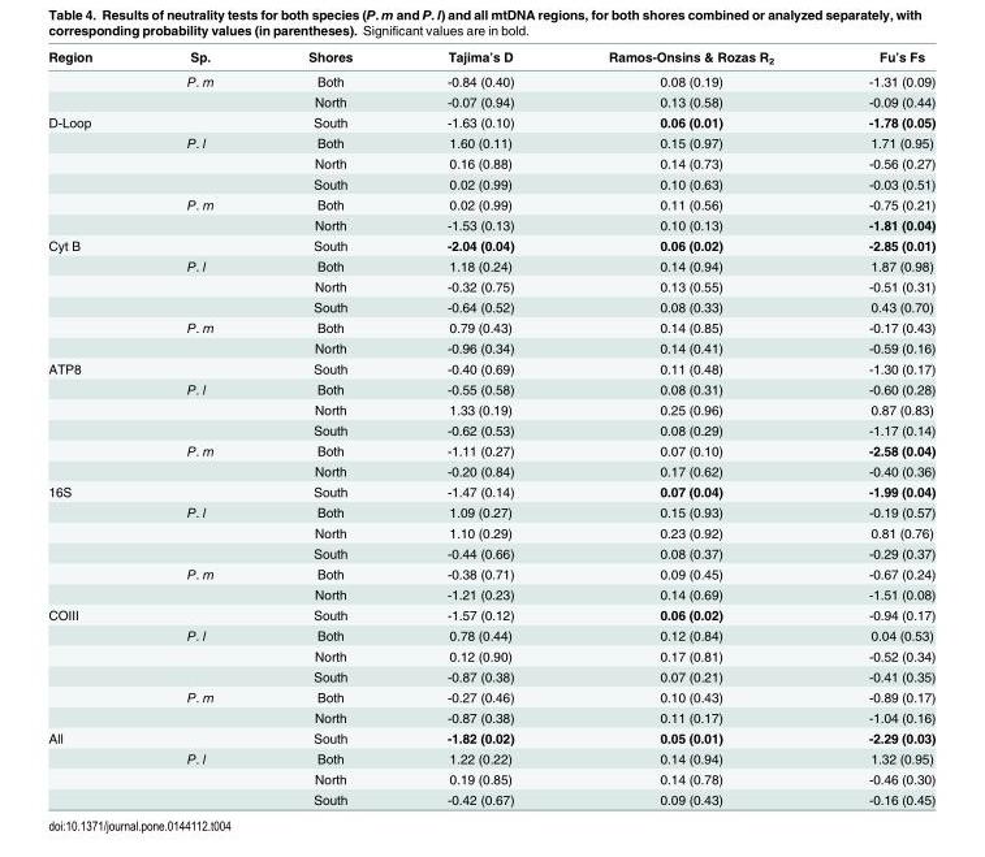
<table><thead><tr><td>Region</td><td>Sp.</td><td>Shores</td><td>Tajima’s D</td><td>Ramos-Onsins &amp; Rozas R<sub>2</sub></td><td>Fu’s Fs</td></tr></thead><tbody><tr><td></td><td>P. m</td><td>Both</td><td>-0.84 (0.40)</td><td>0.08 (0.19)</td><td>-1.31 (0.09)</td></tr><tr><td></td><td></td><td>North</td><td>-0.07 (0.94)</td><td>0.13 (0.58)</td><td>-0.09 (0.44)</td></tr><tr><td rowspan="6">D-Loop</td><td></td><td>South</td><td>-1.63 (0.10)</td><td>0.06 (0.01)</td><td>-1.78 (0.05)</td></tr><tr><td>P. l</td><td>Both</td><td>1.60 (0.11)</td><td>0.15 (0.97)</td><td>1.71 (0.95)</td></tr><tr><td></td><td>North</td><td>0.16 (0.88)</td><td>0.14 (0.73)</td><td>-0.56 (0.27)</td></tr><tr><td></td><td>South</td><td>0.02 (0.99)</td><td>0.10 (0.63)</td><td>-0.03 (0.51)</td></tr><tr><td>P. m</td><td>Both</td><td>0.02 (0.99)</td><td>0.11 (0.56)</td><td>-0.75 (0.21)</td></tr><tr><td></td><td>North</td><td>-1.53 (0.13)</td><td>0.10 (0.13)</td><td>-1.81 (0.04)</td></tr><tr><td rowspan="6">Cyt B</td><td></td><td>South</td><td>-2.04 (0.04)</td><td>0.06 (0.02)</td><td>-2.85 (0.01)</td></tr><tr><td>P. l</td><td>Both</td><td>1.18 (0.24)</td><td>0.14 (0.94)</td><td>1.87 (0.98)</td></tr><tr><td></td><td>North</td><td>-0.32 (0.75)</td><td>0.13 (0.55)</td><td>-0.51 (0.31)</td></tr><tr><td></td><td>South</td><td>-0.64 (0.52)</td><td>0.08 (0.33)</td><td>0.43 (0.70)</td></tr><tr><td>P. m</td><td>Both</td><td>0.79 (0.43)</td><td>0.14 (0.85)</td><td>-0.17 (0.43)</td></tr><tr><td></td><td>North</td><td>-0.96 (0.34)</td><td>0.14 (0.41)</td><td>-0.59 (0.16)</td></tr><tr><td rowspan="6">ATP8</td><td></td><td>South</td><td>-0.40 (0.69)</td><td>0.11 (0.48)</td><td>-1.30 (0.17)</td></tr><tr><td>P. l</td><td>Both</td><td>-0.55 (0.58)</td><td>0.08 (0.31)</td><td>-0.60 (0.28)</td></tr><tr><td></td><td>North</td><td>1.33 (0.19)</td><td>0.25 (0.96)</td><td>0.87 (0.83)</td></tr><tr><td></td><td>South</td><td>-0.62 (0.53)</td><td>0.08 (0.29)</td><td>-1.17 (0.14)</td></tr><tr><td>P. m</td><td>Both</td><td>-1.11 (0.27)</td><td>0.07 (0.10)</td><td>-2.58 (0.04)</td></tr><tr><td></td><td>North</td><td>-0.20 (0.84)</td><td>0.17 (0.62)</td><td>-0.40 (0.36)</td></tr><tr><td rowspan="6">16S</td><td></td><td>South</td><td>-1.47 (0.14)</td><td>0.07 (0.04)</td><td>-1.99 (0.04)</td></tr><tr><td>P. l</td><td>Both</td><td>1.09 (0.27)</td><td>0.15 (0.93)</td><td>-0.19 (0.57)</td></tr><tr><td></td><td>North</td><td>1.10 (0.29)</td><td>0.23 (0.92)</td><td>0.81 (0.76)</td></tr><tr><td></td><td>South</td><td>-0.44 (0.66)</td><td>0.08 (0.37)</td><td>-0.29 (0.37)</td></tr><tr><td>P. m</td><td>Both</td><td>-0.38 (0.71)</td><td>0.09 (0.45)</td><td>-0.67 (0.24)</td></tr><tr><td></td><td>North</td><td>-1.21 (0.23)</td><td>0.14 (0.69)</td><td>-1.51 (0.08)</td></tr><tr><td rowspan="6">COIII</td><td></td><td>South</td><td>-1.57 (0.12)</td><td>0.06 (0.02)</td><td>-0.94 (0.17)</td></tr><tr><td>P. l</td><td>Both</td><td>0.78 (0.44)</td><td>0.12 (0.84)</td><td>0.04 (0.53)</td></tr><tr><td></td><td>North</td><td>0.12 (0.90)</td><td>0.17 (0.81)</td><td>-0.52 (0.34)</td></tr><tr><td></td><td>South</td><td>-0.87 (0.38)</td><td>0.07 (0.21)</td><td>-0.41 (0.35)</td></tr><tr><td>P. m</td><td>Both</td><td>-0.27 (0.46)</td><td>0.10 (0.43)</td><td>-0.89 (0.17)</td></tr><tr><td></td><td>North</td><td>-0.87 (0.38)</td><td>0.11 (0.17)</td><td>-1.04 (0.16)</td></tr><tr><td rowspan="4">All</td><td></td><td>South</td><td>-1.82 (0.02)</td><td>0.05 (0.01)</td><td>-2.29 (0.03)</td></tr><tr><td>P. l</td><td>Both</td><td>1.22 (0.22)</td><td>0.14 (0.94)</td><td>1.32 (0.95)</td></tr><tr><td></td><td>North</td><td>0.19 (0.85)</td><td>0.14 (0.78)</td><td>-0.46 (0.30)</td></tr><tr><td></td><td>South</td><td>-0.42 (0.67)</td><td>0.09 (0.43)</td><td>-0.16 (0.45)</td></tr></tbody></table>